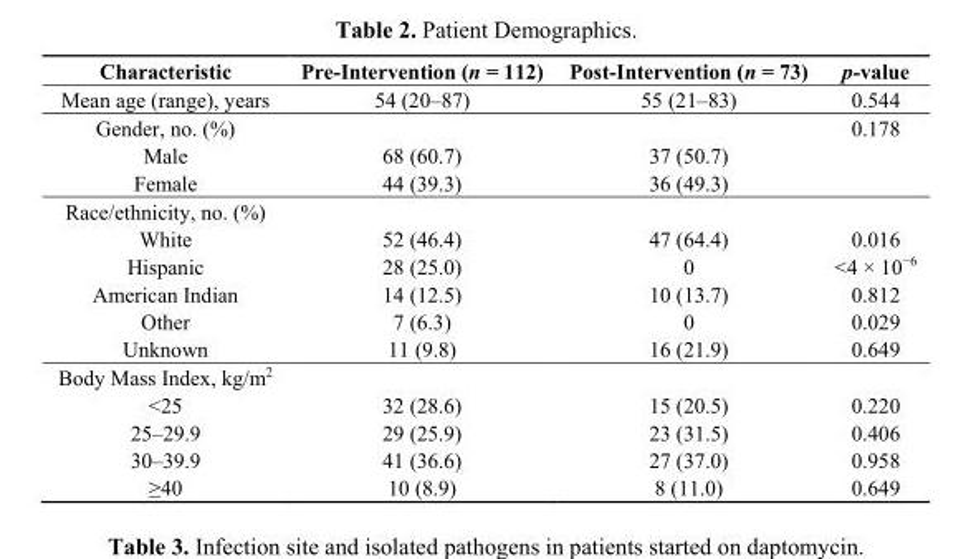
<table><thead><tr><td>Characteristic</td><td>Pre-Intervention (n = 112)</td><td>Post-Intervention (n = 73)</td><td>p-value</td></tr></thead><tbody><tr><td>Mean age (range), years</td><td>54 (20–87)</td><td>55 (21–83)</td><td>0.544</td></tr><tr><td>Gender, no. (%)</td><td></td><td></td><td>0.178</td></tr><tr><td>Male</td><td>68 (60.7)</td><td>37 (50.7)</td><td></td></tr><tr><td>Female</td><td>44 (39.3)</td><td>36 (49.3)</td><td></td></tr><tr><td colspan="4">Race/ethnicity, no. (%)</td></tr><tr><td>White</td><td>52 (46.4)</td><td>47 (64.4)</td><td>0.016</td></tr><tr><td>Hispanic</td><td>28 (25.0)</td><td>0</td><td>&lt;4 × 10<sup>−6</sup></td></tr><tr><td>American Indian</td><td>14 (12.5)</td><td>10 (13.7)</td><td>0.812</td></tr><tr><td>Other</td><td>7 (6.3)</td><td>0</td><td>0.029</td></tr><tr><td>Unknown</td><td>11 (9.8)</td><td>16 (21.9)</td><td>0.649</td></tr><tr><td colspan="4">Body Mass Index, kg/m<sup>2</sup></td></tr><tr><td>&lt;25</td><td>32 (28.6)</td><td>15 (20.5)</td><td>0.220</td></tr><tr><td>25–29.9</td><td>29 (25.9)</td><td>23 (31.5)</td><td>0.406</td></tr><tr><td>30–39.9</td><td>41 (36.6)</td><td>27 (37.0)</td><td>0.958</td></tr><tr><td>≥40</td><td>10 (8.9)</td><td>8 (11.0)</td><td>0.649</td></tr></tbody></table>